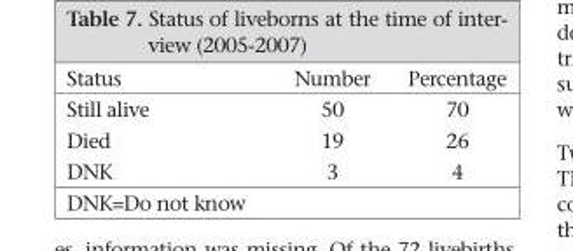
<table><thead><tr><td>Status</td><td>Number</td><td>Percentage</td></tr></thead><tbody><tr><td>Still alive</td><td>50</td><td>70</td></tr><tr><td>Died</td><td>19</td><td>26</td></tr><tr><td>DNK</td><td>3</td><td>4</td></tr></tbody></table>